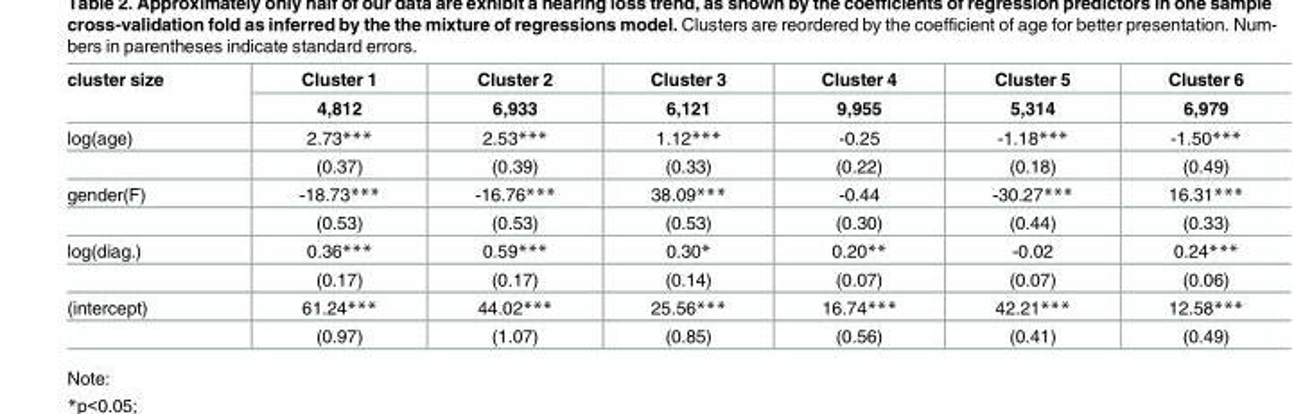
<table><thead><tr><td rowspan="2">cluster size</td><td rowspan="2">Cluster 1 4,812</td><td rowspan="2">Cluster 2 6,933</td><td rowspan="2">Cluster 3 6,121</td><td rowspan="2">Cluster 4 9,955</td><td rowspan="2">Cluster 5 5,314</td><td rowspan="2">Cluster 6 6,979</td></tr><tr></tr></thead><tbody><tr><td rowspan="2">log(age)</td><td>2.73***</td><td>2.53***</td><td>1.12***</td><td>-0.25</td><td>-1.18***</td><td>-1.50***</td></tr><tr><td>(0.37)</td><td>(0.39)</td><td>(0.33)</td><td>(0.22)</td><td>(0.18)</td><td>(0.49)</td></tr><tr><td rowspan="2">gender(F)</td><td>-18.73***</td><td>-16.76***</td><td>38.09***</td><td>-0.44</td><td>-30.27***</td><td>16.31***</td></tr><tr><td>(0.53)</td><td>(0.53)</td><td>(0.53)</td><td>(0.30)</td><td>(0.44)</td><td>(0.33)</td></tr><tr><td rowspan="2">log(diag.)</td><td>0.36***</td><td>0.59***</td><td>0.30*</td><td>0.20**</td><td>-0.02</td><td>0.24***</td></tr><tr><td>(0.17)</td><td>(0.17)</td><td>(0.14)</td><td>(0.07)</td><td>(0.07)</td><td>(0.06)</td></tr><tr><td rowspan="2">(intercept)</td><td>61.24***</td><td>44.02***</td><td>25.56***</td><td>16.74***</td><td>42.21***</td><td>12.58***</td></tr><tr><td>(0.97)</td><td>(1.07)</td><td>(0.85)</td><td>(0.56)</td><td>(0.41)</td><td>(0.49)</td></tr></tbody></table>